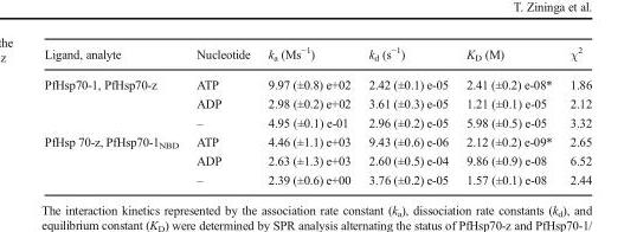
<table><thead><tr><td>Ligand, analyte</td><td>Nucleotide</td><td>k<sub>a</sub> (Ms<sup>−1</sup>)</td><td>k<sub>d</sub> (s<sup>−1</sup>)</td><td>K<sub>D</sub> (M)</td><td>χ<sup>2</sup></td></tr></thead><tbody><tr><td rowspan="3">PfHsp70-1, PfHsp70-z</td><td>ATP</td><td>9.97 (±0.8) e+02</td><td>2.42 (±0.1) e-05</td><td>2.41 (±0.2) e-08*</td><td>1.86</td></tr><tr><td>ADP</td><td>2.98 (±0.2) e+02</td><td>3.61 (±0.3) e-05</td><td>1.21 (±0.1) e-05</td><td>2.12</td></tr><tr><td>–</td><td>4.95 (±0.1) e-01</td><td>2.96 (±0.2) e-05</td><td>5.98 (±0.5) e-05</td><td>3.32</td></tr><tr><td rowspan="3">PfHsp 70-z, PfHsp70-1<sub>NBD</sub></td><td>ATP</td><td>4.46 (±1.1) e+03</td><td>9.43 (±0.6) e-06</td><td>2.12 (±0.2) e-09*</td><td>2.65</td></tr><tr><td>ADP</td><td>2.63 (±1.3) e+03</td><td>2.60 (±0.5) e-04</td><td>9.86 (±0.9) e-08</td><td>6.52</td></tr><tr><td>–</td><td>2.39 (±0.6) e+00</td><td>3.76 (±0.2) e-05</td><td>1.57 (±0.1) e-08</td><td>2.44</td></tr></tbody></table>